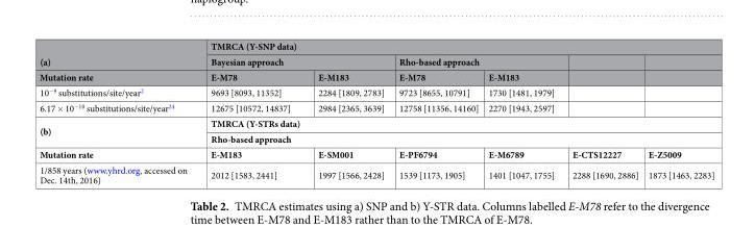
<table><thead><tr><td rowspan="3">(a) Mutation rate</td><td colspan="6">TMRCA (Y-SNP data)</td></tr><tr><td colspan="2">Bayesian approach</td><td colspan="2">Rho-based approach</td><td rowspan="2"></td><td rowspan="2"></td></tr><tr><td>E-M78</td><td>E-M183</td><td>E-M78</td><td>E-M183</td></tr></thead><tbody><tr><td>10<sup>−9</sup> substitutions/site/year<sup>2</sup></td><td>9693 [8093, 11352]</td><td>2284 [1809, 2783]</td><td>9723 [8655, 10791]</td><td>1730 [1481, 1979]</td><td></td><td></td></tr><tr><td>6.17 × 10<sup>−10</sup> substitutions/site/year<sup>24</sup></td><td>12675 [10572, 14837]</td><td>2984 [2365, 3639]</td><td>12758 [11356, 14160]</td><td>2270 [1943, 2597]</td><td></td><td></td></tr><tr><td rowspan="2">(b)</td><td colspan="6">TMRCA (Y-STRs data)</td></tr><tr><td colspan="6">Rho-based approach</td></tr><tr><td>Mutation rate</td><td>E-M183</td><td>E-SM001</td><td>E-PF6794</td><td>E-M6789</td><td>E-CTS12227</td><td>E-Z5009</td></tr><tr><td>1/858 years (www.yhrd.org, accessed on Dec. 14th, 2016)</td><td>2012 [1583, 2441]</td><td>1997 [1566, 2428]</td><td>1539 [1173, 1905]</td><td>1401 [1047, 1755]</td><td>2288 [1690, 2886]</td><td>1873 [1463, 2283]</td></tr></tbody></table>